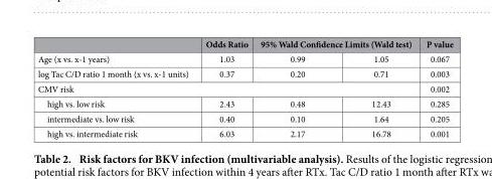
<table><thead><tr><td rowspan="2">Age (x vs. x-1 years)</td><td rowspan="2">Odds Ratio 1.03</td><td colspan="2">95% Wald Confidence Limits (Wald test)</td><td rowspan="2">P value 0.067</td></tr><tr><td>0.99</td><td>1.05</td></tr></thead><tbody><tr><td>log Tac C/D ratio 1 month (x vs. x-1 units)</td><td>0.37</td><td>0.20</td><td>0.71</td><td>0.003</td></tr><tr><td colspan="4">CMV risk</td><td>0.002</td></tr><tr><td>high vs. low risk</td><td>2.43</td><td>0.48</td><td>12.43</td><td>0.285</td></tr><tr><td>intermediate vs. low risk</td><td>0.40</td><td>0.10</td><td>1.64</td><td>0.205</td></tr><tr><td>high vs. intermediate risk</td><td>6.03</td><td>2.17</td><td>16.78</td><td>0.001</td></tr></tbody></table>